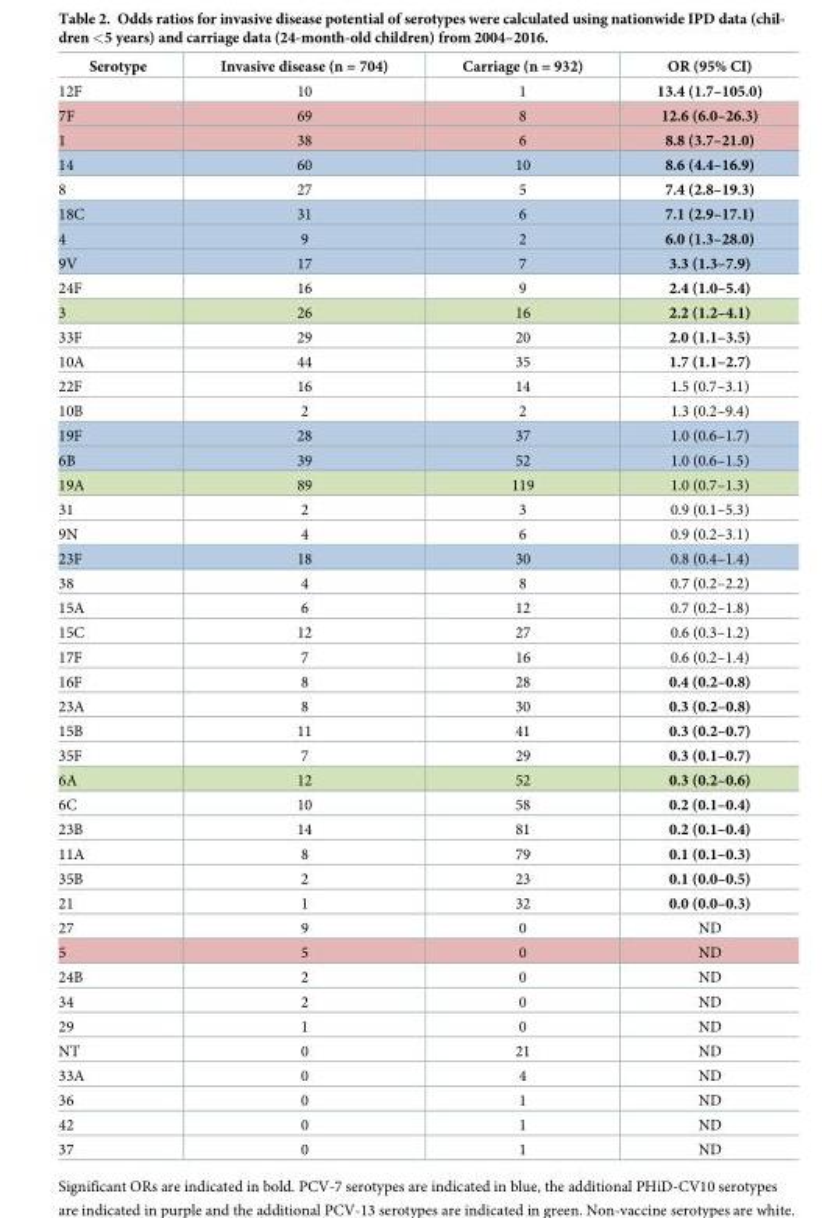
<table><thead><tr><td>Serotype</td><td>Invasive disease (n = 704)</td><td>Carriage (n = 932)</td><td>OR (95% CI)</td></tr></thead><tbody><tr><td>12F</td><td>10</td><td>1</td><td>13.4 (1.7–105.0)</td></tr><tr><td>7F</td><td>69</td><td>8</td><td>12.6 (6.0–26.3)</td></tr><tr><td>1</td><td>38</td><td>6</td><td>8.8 (3.7–21.0)</td></tr><tr><td>14</td><td>60</td><td>10</td><td>8.6 (4.4–16.9)</td></tr><tr><td>8</td><td>27</td><td>5</td><td>7.4 (2.8–19.3)</td></tr><tr><td>18C</td><td>31</td><td>6</td><td>7.1 (2.9–17.1)</td></tr><tr><td>4</td><td>9</td><td>2</td><td>6.0 (1.3–28.0)</td></tr><tr><td>9V</td><td>17</td><td>7</td><td>3.3 (1.3–7.9)</td></tr><tr><td>24F</td><td>16</td><td>9</td><td>2.4 (1.0–5.4)</td></tr><tr><td>3</td><td>26</td><td>16</td><td>2.2 (1.2–4.1)</td></tr><tr><td>33F</td><td>29</td><td>20</td><td>2.0 (1.1–3.5)</td></tr><tr><td>10A</td><td>44</td><td>35</td><td>1.7 (1.1–2.7)</td></tr><tr><td>22F</td><td>16</td><td>14</td><td>1.5 (0.7–3.1)</td></tr><tr><td>10B</td><td>2</td><td>2</td><td>1.3 (0.2–9.4)</td></tr><tr><td>19F</td><td>28</td><td>37</td><td>1.0 (0.6–1.7)</td></tr><tr><td>6B</td><td>39</td><td>52</td><td>1.0 (0.6–1.5)</td></tr><tr><td>19A</td><td>89</td><td>119</td><td>1.0 (0.7–1.3)</td></tr><tr><td>31</td><td>2</td><td>3</td><td>0.9 (0.1–5.3)</td></tr><tr><td>9N</td><td>4</td><td>6</td><td>0.9 (0.2–3.1)</td></tr><tr><td>23F</td><td>18</td><td>30</td><td>0.8 (0.4–1.4)</td></tr><tr><td>38</td><td>4</td><td>8</td><td>0.7 (0.2–2.2)</td></tr><tr><td>15A</td><td>6</td><td>12</td><td>0.7 (0.2–1.8)</td></tr><tr><td>15C</td><td>12</td><td>27</td><td>0.6 (0.3–1.2)</td></tr><tr><td>17F</td><td>7</td><td>16</td><td>0.6 (0.2–1.4)</td></tr><tr><td>16F</td><td>8</td><td>28</td><td>0.4 (0.2–0.8)</td></tr><tr><td>23A</td><td>8</td><td>30</td><td>0.3 (0.2–0.8)</td></tr><tr><td>15B</td><td>11</td><td>41</td><td>0.3 (0.2–0.7)</td></tr><tr><td>35F</td><td>7</td><td>29</td><td>0.3 (0.1–0.7)</td></tr><tr><td>6A</td><td>12</td><td>52</td><td>0.3 (0.2–0.6)</td></tr><tr><td>6C</td><td>10</td><td>58</td><td>0.2 (0.1–0.4)</td></tr><tr><td>23B</td><td>14</td><td>81</td><td>0.2 (0.1–0.4)</td></tr><tr><td>11A</td><td>8</td><td>79</td><td>0.1 (0.1–0.3)</td></tr><tr><td>35B</td><td>2</td><td>23</td><td>0.1 (0.0–0.5)</td></tr><tr><td>21</td><td>1</td><td>32</td><td>0.0 (0.0–0.3)</td></tr><tr><td>27</td><td>9</td><td>0</td><td>ND</td></tr><tr><td>5</td><td>5</td><td>0</td><td>ND</td></tr><tr><td>24B</td><td>2</td><td>0</td><td>ND</td></tr><tr><td>34</td><td>2</td><td>0</td><td>ND</td></tr><tr><td>29</td><td>1</td><td>0</td><td>ND</td></tr><tr><td>NT</td><td>0</td><td>21</td><td>ND</td></tr><tr><td>33A</td><td>0</td><td>4</td><td>ND</td></tr><tr><td>36</td><td>0</td><td>1</td><td>ND</td></tr><tr><td>42</td><td>0</td><td>1</td><td>ND</td></tr><tr><td>37</td><td>0</td><td>1</td><td>ND</td></tr></tbody></table>